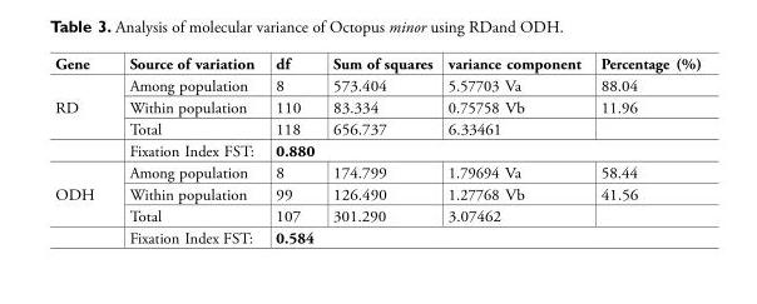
<table><thead><tr><td>Gene</td><td>Source of variation</td><td>df</td><td>Sum of squares</td><td>variance component</td><td>Percentage (%)</td></tr></thead><tbody><tr><td rowspan="4">RD</td><td>Among population</td><td>8</td><td>573.404</td><td>5.57703 Va</td><td>88.04</td></tr><tr><td>Within population</td><td>110</td><td>83.334</td><td>0.75758 Vb</td><td>11.96</td></tr><tr><td>Total</td><td>118</td><td>656.737</td><td>6.33461</td><td></td></tr><tr><td>Fixation Index FST:</td><td colspan="4">0.880</td></tr><tr><td rowspan="4">ODH</td><td>Among population</td><td>8</td><td>174.799</td><td>1.79694 Va</td><td>58.44</td></tr><tr><td>Within population</td><td>99</td><td>126.490</td><td>1.27768 Vb</td><td>41.56</td></tr><tr><td>Total</td><td>107</td><td>301.290</td><td>3.07462</td><td></td></tr><tr><td>Fixation Index FST:</td><td colspan="4">0.584</td></tr></tbody></table>